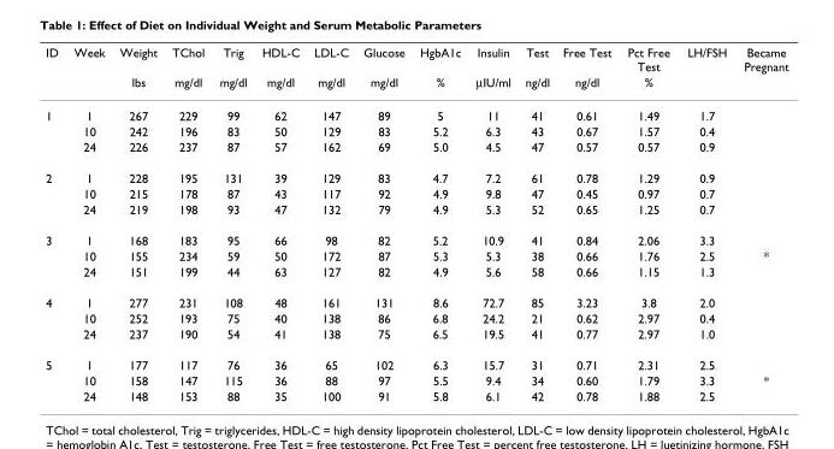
<table><thead><tr><td rowspan="2">ID</td><td rowspan="2">Week</td><td rowspan="2">Weight lbs</td><td rowspan="2">TChol mg/dl</td><td rowspan="2">Trig mg/dl</td><td rowspan="2">HDL-C mg/dl</td><td rowspan="2">LDL-C mg/dl</td><td rowspan="2">Glucose mg/dl</td><td rowspan="2">HgbA1c %</td><td rowspan="2">Insulin µIU/ml</td><td rowspan="2">Test ng/dl</td><td rowspan="2">Free Test ng/dl</td><td rowspan="2">Pct Free Test %</td><td rowspan="2">LH/FSH</td><td rowspan="2">Became Pregnant</td></tr><tr></tr></thead><tbody><tr><td rowspan="3">1</td><td>1</td><td>267</td><td>229</td><td>99</td><td>62</td><td>147</td><td>89</td><td>5</td><td>11</td><td>41</td><td>0.61</td><td>1.49</td><td>1.7</td><td></td></tr><tr><td>10</td><td>242</td><td>196</td><td>83</td><td>50</td><td>129</td><td>83</td><td>5.2</td><td>6.3</td><td>43</td><td>0.67</td><td>1.57</td><td>0.4</td><td></td></tr><tr><td>24</td><td>226</td><td>237</td><td>87</td><td>57</td><td>162</td><td>69</td><td>5.0</td><td>4.5</td><td>47</td><td>0.57</td><td>0.57</td><td>0.9</td><td></td></tr><tr><td rowspan="3">2</td><td>1</td><td>228</td><td>195</td><td>131</td><td>39</td><td>129</td><td>83</td><td>4.7</td><td>7.2</td><td>61</td><td>0.78</td><td>1.29</td><td>0.9</td><td></td></tr><tr><td>10</td><td>215</td><td>178</td><td>87</td><td>43</td><td>117</td><td>92</td><td>4.9</td><td>9.8</td><td>47</td><td>0.45</td><td>0.97</td><td>0.7</td><td></td></tr><tr><td>24</td><td>219</td><td>198</td><td>93</td><td>47</td><td>132</td><td>79</td><td>4.9</td><td>5.3</td><td>52</td><td>0.65</td><td>1.25</td><td>0.7</td><td></td></tr><tr><td rowspan="3">3</td><td>1</td><td>168</td><td>183</td><td>95</td><td>66</td><td>98</td><td>82</td><td>5.2</td><td>10.9</td><td>41</td><td>0.84</td><td>2.06</td><td>3.3</td><td></td></tr><tr><td>10</td><td>155</td><td>234</td><td>59</td><td>50</td><td>172</td><td>87</td><td>5.3</td><td>5.3</td><td>38</td><td>0.66</td><td>1.76</td><td>2.5</td><td>*</td></tr><tr><td>24</td><td>151</td><td>199</td><td>44</td><td>63</td><td>127</td><td>82</td><td>4.9</td><td>5.6</td><td>58</td><td>0.66</td><td>1.15</td><td>1.3</td><td></td></tr><tr><td rowspan="3">4</td><td>1</td><td>277</td><td>231</td><td>108</td><td>48</td><td>161</td><td>131</td><td>8.6</td><td>72.7</td><td>85</td><td>3.23</td><td>3.8</td><td>2.0</td><td></td></tr><tr><td>10</td><td>252</td><td>193</td><td>75</td><td>40</td><td>138</td><td>86</td><td>6.8</td><td>24.2</td><td>21</td><td>0.62</td><td>2.97</td><td>0.4</td><td></td></tr><tr><td>24</td><td>237</td><td>190</td><td>54</td><td>41</td><td>138</td><td>75</td><td>6.5</td><td>19.5</td><td>41</td><td>0.77</td><td>2.97</td><td>1.0</td><td></td></tr><tr><td rowspan="3">5</td><td>1</td><td>177</td><td>117</td><td>76</td><td>36</td><td>65</td><td>102</td><td>6.3</td><td>15.7</td><td>31</td><td>0.71</td><td>2.31</td><td>2.5</td><td></td></tr><tr><td>10</td><td>158</td><td>147</td><td>115</td><td>36</td><td>88</td><td>97</td><td>5.5</td><td>9.4</td><td>34</td><td>0.60</td><td>1.79</td><td>3.3</td><td>*</td></tr><tr><td>24</td><td>148</td><td>153</td><td>88</td><td>35</td><td>100</td><td>91</td><td>5.8</td><td>6.1</td><td>42</td><td>0.78</td><td>1.88</td><td>2.5</td><td></td></tr></tbody></table>